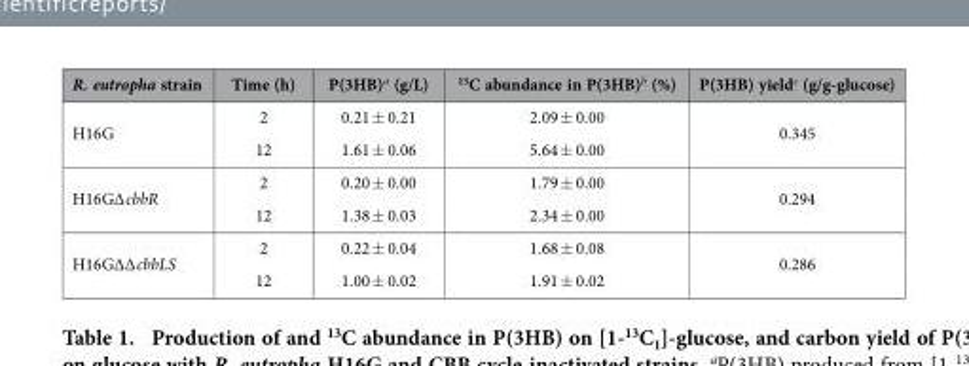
<table><thead><tr><td>R. eutropha strain</td><td>Time (h)</td><td>P(3HB)<sup>a</sup> (g/L)</td><td><sup>13</sup>C abundance in P(3HB)<sup>b</sup> (%)</td><td>P(3HB) yield<sup>c</sup> (g/g-glucose)</td></tr></thead><tbody><tr><td rowspan="2">H16G</td><td>2</td><td>0.21 ± 0.21</td><td>2.09 ± 0.00</td><td rowspan="2">0.345</td></tr><tr><td>12</td><td>1.61 ± 0.06</td><td>5.64 ± 0.00</td></tr><tr><td rowspan="2">H16G∆ cbbR</td><td>2</td><td>0.20 ± 0.00</td><td>1.79 ± 0.00</td><td rowspan="2">0.294</td></tr><tr><td>12</td><td>1.38 ± 0.03</td><td>2.34 ± 0.00</td></tr><tr><td rowspan="2">H16G∆∆ cbbLS</td><td>2</td><td>0.22 ± 0.04</td><td>1.68 ± 0.08</td><td rowspan="2">0.286</td></tr><tr><td>12</td><td>1.00 ± 0.02</td><td>1.91 ± 0.02</td></tr></tbody></table>